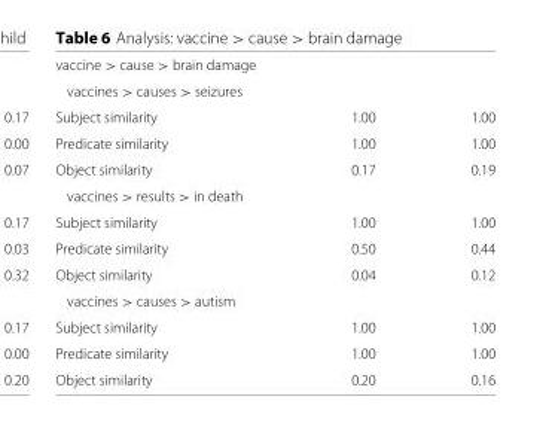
<table><tbody><tr><td colspan="3">vaccine &gt; cause &gt; brain damage</td></tr><tr><td colspan="3">vaccines &gt; causes &gt; seizures</td></tr><tr><td>Subject similarity</td><td>1.00</td><td>1.00</td></tr><tr><td>Predicate similarity</td><td>1.00</td><td>1.00</td></tr><tr><td>Object similarity</td><td>0.17</td><td>0.19</td></tr><tr><td colspan="3">vaccines &gt; results &gt; in death</td></tr><tr><td>Subject similarity</td><td>1.00</td><td>1.00</td></tr><tr><td>Predicate similarity</td><td>0.50</td><td>0.44</td></tr><tr><td>Object similarity</td><td>0.04</td><td>0.12</td></tr><tr><td colspan="3">vaccines &gt; causes &gt; autism</td></tr><tr><td>Subject similarity</td><td>1.00</td><td>1.00</td></tr><tr><td>Predicate similarity</td><td>1.00</td><td>1.00</td></tr><tr><td>Object similarity</td><td>0.20</td><td>0.16</td></tr></tbody></table>